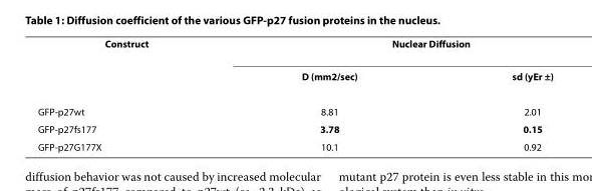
<table><tbody><tr><td rowspan="2">Construct</td><td colspan="2">Nuclear Diffusion</td></tr><tr><td>D (mm2/sec)</td><td>sd (yEr ±)</td></tr><tr><td>GFP-p27wt</td><td>8.81</td><td>2.01</td></tr><tr><td>GFP-p27fs177</td><td>3.78</td><td>0.15</td></tr><tr><td>GFP-p27G177X</td><td>10.1</td><td>0.92</td></tr></tbody></table>